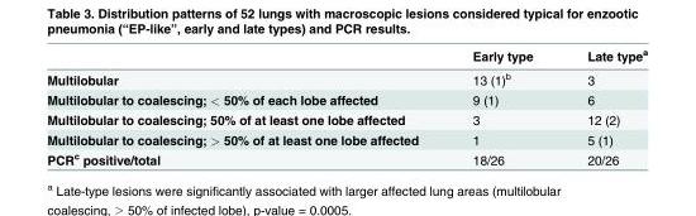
<table><thead><tr><td></td><td>Early type</td><td>Late type<sup>a</sup></td></tr></thead><tbody><tr><td>Multilobular</td><td>13 (1)<sup>b</sup></td><td>3</td></tr><tr><td>Multilobular to coalescing; &lt; 50% of each lobe affected</td><td>9 (1)</td><td>6</td></tr><tr><td>Multilobular to coalescing; 50% of at least one lobe affected</td><td>3</td><td>12 (2)</td></tr><tr><td>Multilobular to coalescing; &gt; 50% of at least one lobe affected</td><td>1</td><td>5 (1)</td></tr><tr><td>PCR<sup>c</sup> positive/total</td><td>18/26</td><td>20/26</td></tr></tbody></table>